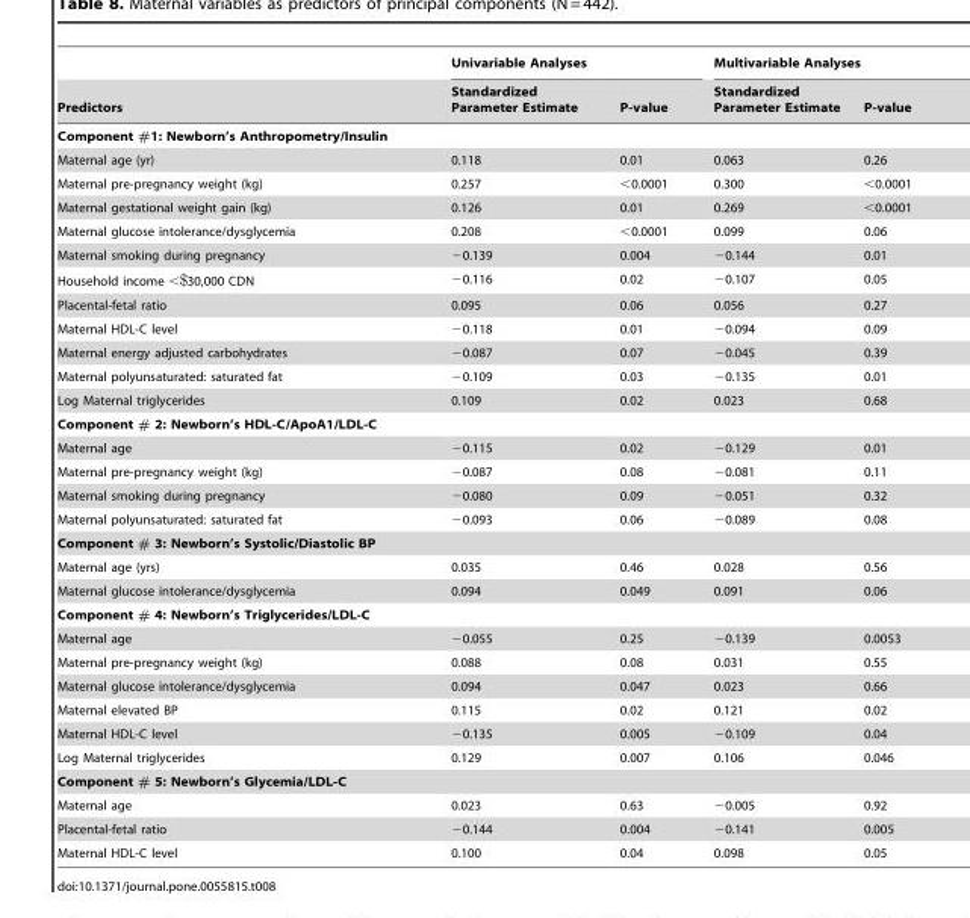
<table><thead><tr><td rowspan="2">Predictors</td><td colspan="2">Univariable Analyses</td><td colspan="2">Multivariable Analyses</td></tr><tr><td>Standardized Parameter Estimate</td><td>P-value</td><td>Standardized Parameter Estimate</td><td>P-value</td></tr></thead><tbody><tr><td colspan="5">Component #1: Newborn’s Anthropometry/Insulin</td></tr><tr><td>Maternal age (yr)</td><td>0.118</td><td>0.01</td><td>0.063</td><td>0.26</td></tr><tr><td>Maternal pre-pregnancy weight (kg)</td><td>0.257</td><td>&lt;0.0001</td><td>0.300</td><td>&lt;0.0001</td></tr><tr><td>Maternal gestational weight gain (kg)</td><td>0.126</td><td>0.01</td><td>0.269</td><td>&lt;0.0001</td></tr><tr><td>Maternal glucose intolerance/dysglycemia</td><td>0.208</td><td>&lt;0.0001</td><td>0.099</td><td>0.06</td></tr><tr><td>Maternal smoking during pregnancy</td><td>−0.139</td><td>0.004</td><td>−0.144</td><td>0.01</td></tr><tr><td>Household income &lt;$30,000 CDN</td><td>−0.116</td><td>0.02</td><td>−0.107</td><td>0.05</td></tr><tr><td>Placental-fetal ratio</td><td>0.095</td><td>0.06</td><td>0.056</td><td>0.27</td></tr><tr><td>Maternal HDL-C level</td><td>−0.118</td><td>0.01</td><td>−0.094</td><td>0.09</td></tr><tr><td>Maternal energy adjusted carbohydrates</td><td>−0.087</td><td>0.07</td><td>−0.045</td><td>0.39</td></tr><tr><td>Maternal polyunsaturated: saturated fat</td><td>−0.109</td><td>0.03</td><td>−0.135</td><td>0.01</td></tr><tr><td>Log Maternal triglycerides</td><td>0.109</td><td>0.02</td><td>0.023</td><td>0.68</td></tr><tr><td colspan="5">Component # 2: Newborn’s HDL-C/ApoA1/LDL-C</td></tr><tr><td>Maternal age</td><td>−0.115</td><td>0.02</td><td>−0.129</td><td>0.01</td></tr><tr><td>Maternal pre-pregnancy weight (kg)</td><td>−0.087</td><td>0.08</td><td>−0.081</td><td>0.11</td></tr><tr><td>Maternal smoking during pregnancy</td><td>−0.080</td><td>0.09</td><td>−0.051</td><td>0.32</td></tr><tr><td>Maternal polyunsaturated: saturated fat</td><td>−0.093</td><td>0.06</td><td>−0.089</td><td>0.08</td></tr><tr><td colspan="5">Component # 3: Newborn’s Systolic/Diastolic BP</td></tr><tr><td>Maternal age (yrs)</td><td>0.035</td><td>0.46</td><td>0.028</td><td>0.56</td></tr><tr><td>Maternal glucose intolerance/dysglycemia</td><td>0.094</td><td>0.049</td><td>0.091</td><td>0.06</td></tr><tr><td colspan="5">Component # 4: Newborn’s Triglycerides/LDL-C</td></tr><tr><td>Maternal age</td><td>−0.055</td><td>0.25</td><td>−0.139</td><td>0.0053</td></tr><tr><td>Maternal pre-pregnancy weight (kg)</td><td>0.088</td><td>0.08</td><td>0.031</td><td>0.55</td></tr><tr><td>Maternal glucose intolerance/dysglycemia</td><td>0.094</td><td>0.047</td><td>0.023</td><td>0.66</td></tr><tr><td>Maternal elevated BP</td><td>0.115</td><td>0.02</td><td>0.121</td><td>0.02</td></tr><tr><td>Maternal HDL-C level</td><td>−0.135</td><td>0.005</td><td>−0.109</td><td>0.04</td></tr><tr><td>Log Maternal triglycerides</td><td>0.129</td><td>0.007</td><td>0.106</td><td>0.046</td></tr><tr><td colspan="5">Component # 5: Newborn’s Glycemia/LDL-C</td></tr><tr><td>Maternal age</td><td>0.023</td><td>0.63</td><td>−0.005</td><td>0.92</td></tr><tr><td>Placental-fetal ratio</td><td>−0.144</td><td>0.004</td><td>−0.141</td><td>0.005</td></tr><tr><td>Maternal HDL-C level</td><td>0.100</td><td>0.04</td><td>0.098</td><td>0.05</td></tr></tbody></table>